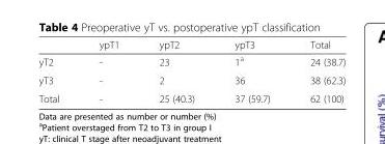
<table><thead><tr><td></td><td>ypT1</td><td>ypT2</td><td>ypT3</td><td>Total</td></tr></thead><tbody><tr><td>yT2</td><td>-</td><td>23</td><td>1<sup>a</sup></td><td>24 (38.7)</td></tr><tr><td>yT3</td><td>-</td><td>2</td><td>36</td><td>38 (62.3)</td></tr><tr><td>Total</td><td>-</td><td>25 (40.3)</td><td>37 (59.7)</td><td>62 (100)</td></tr></tbody></table>